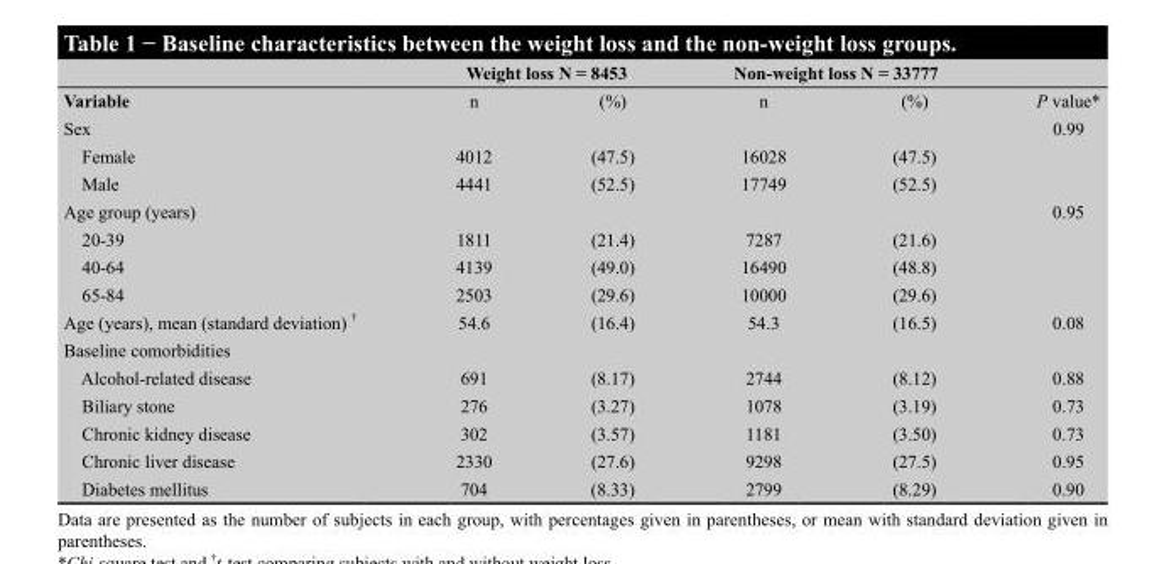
<table><thead><tr><td rowspan="2">Variable</td><td colspan="2">Weight loss N = 8453</td><td colspan="2">Non-weight loss N = 33777</td><td rowspan="2">P value*</td></tr><tr><td>n</td><td>(%)</td><td>n</td><td>(%)</td></tr></thead><tbody><tr><td>Sex</td><td></td><td></td><td></td><td></td><td>0.99</td></tr><tr><td>Female</td><td>4012</td><td>(47.5)</td><td>16028</td><td>(47.5)</td><td></td></tr><tr><td>Male</td><td>4441</td><td>(52.5)</td><td>17749</td><td>(52.5)</td><td></td></tr><tr><td>Age group (years)</td><td></td><td></td><td></td><td></td><td>0.95</td></tr><tr><td>20-39</td><td>1811</td><td>(21.4)</td><td>7287</td><td>(21.6)</td><td></td></tr><tr><td>40-64</td><td>4139</td><td>(49.0)</td><td>16490</td><td>(48.8)</td><td></td></tr><tr><td>65-84</td><td>2503</td><td>(29.6)</td><td>10000</td><td>(29.6)</td><td></td></tr><tr><td>Age (years), mean (standard deviation) †</td><td>54.6</td><td>(16.4)</td><td>54.3</td><td>(16.5)</td><td>0.08</td></tr><tr><td colspan="6">Baseline comorbidities</td></tr><tr><td>Alcohol-related disease</td><td>691</td><td>(8.17)</td><td>2744</td><td>(8.12)</td><td>0.88</td></tr><tr><td>Biliary stone</td><td>276</td><td>(3.27)</td><td>1078</td><td>(3.19)</td><td>0.73</td></tr><tr><td>Chronic kidney disease</td><td>302</td><td>(3.57)</td><td>1181</td><td>(3.50)</td><td>0.73</td></tr><tr><td>Chronic liver disease</td><td>2330</td><td>(27.6)</td><td>9298</td><td>(27.5)</td><td>0.95</td></tr><tr><td>Diabetes mellitus</td><td>704</td><td>(8.33)</td><td>2799</td><td>(8.29)</td><td>0.90</td></tr></tbody></table>